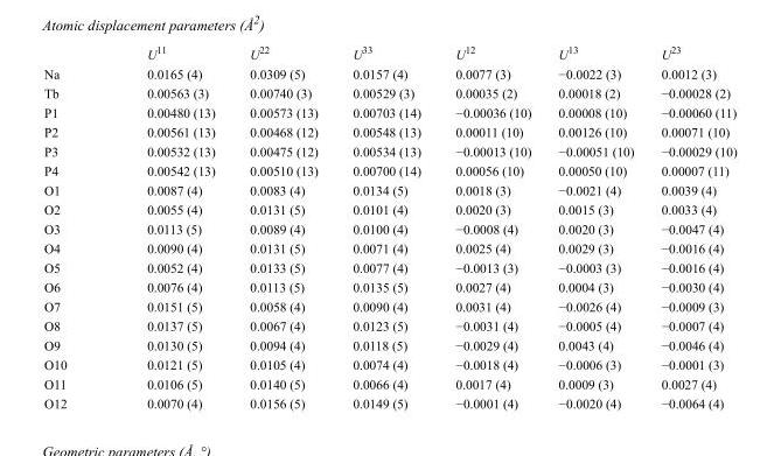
<table><thead><tr><td></td><td>U<sup>11</sup></td><td>U<sup>22</sup></td><td>U<sup>33</sup></td><td>U<sup>12</sup></td><td>U<sup>13</sup></td><td>U<sup>23</sup></td></tr></thead><tbody><tr><td>Na</td><td>0.0165 (4)</td><td>0.0309 (5)</td><td>0.0157 (4)</td><td>0.0077 (3)</td><td>−0.0022 (3)</td><td>0.0012 (3)</td></tr><tr><td>Tb</td><td>0.00563 (3)</td><td>0.00740 (3)</td><td>0.00529 (3)</td><td>0.00035 (2)</td><td>0.00018 (2)</td><td>−0.00028 (2)</td></tr><tr><td>P1</td><td>0.00480 (13)</td><td>0.00573 (13)</td><td>0.00703 (14)</td><td>−0.00036 (10)</td><td>0.00008 (10)</td><td>−0.00060 (11)</td></tr><tr><td>P2</td><td>0.00561 (13)</td><td>0.00468 (12)</td><td>0.00548 (13)</td><td>0.00011 (10)</td><td>0.00126 (10)</td><td>0.00071 (10)</td></tr><tr><td>P3</td><td>0.00532 (13)</td><td>0.00475 (12)</td><td>0.00534 (13)</td><td>−0.00013 (10)</td><td>−0.00051 (10)</td><td>−0.00029 (10)</td></tr><tr><td>P4</td><td>0.00542 (13)</td><td>0.00510 (13)</td><td>0.00700 (14)</td><td>0.00056 (10)</td><td>0.00050 (10)</td><td>0.00007 (11)</td></tr><tr><td>O1</td><td>0.0087 (4)</td><td>0.0083 (4)</td><td>0.0134 (5)</td><td>0.0018 (3)</td><td>−0.0021 (4)</td><td>0.0039 (4)</td></tr><tr><td>O2</td><td>0.0055 (4)</td><td>0.0131 (5)</td><td>0.0101 (4)</td><td>0.0020 (3)</td><td>0.0015 (3)</td><td>0.0033 (4)</td></tr><tr><td>O3</td><td>0.0113 (5)</td><td>0.0089 (4)</td><td>0.0100 (4)</td><td>−0.0008 (4)</td><td>0.0020 (3)</td><td>−0.0047 (4)</td></tr><tr><td>O4</td><td>0.0090 (4)</td><td>0.0131 (5)</td><td>0.0071 (4)</td><td>0.0025 (4)</td><td>0.0029 (3)</td><td>−0.0016 (4)</td></tr><tr><td>O5</td><td>0.0052 (4)</td><td>0.0133 (5)</td><td>0.0077 (4)</td><td>−0.0013 (3)</td><td>−0.0003 (3)</td><td>−0.0016 (4)</td></tr><tr><td>O6</td><td>0.0076 (4)</td><td>0.0113 (5)</td><td>0.0135 (5)</td><td>0.0027 (4)</td><td>0.0004 (3)</td><td>−0.0030 (4)</td></tr><tr><td>O7</td><td>0.0151 (5)</td><td>0.0058 (4)</td><td>0.0090 (4)</td><td>0.0031 (4)</td><td>−0.0026 (4)</td><td>−0.0009 (3)</td></tr><tr><td>O8</td><td>0.0137 (5)</td><td>0.0067 (4)</td><td>0.0123 (5)</td><td>−0.0031 (4)</td><td>−0.0005 (4)</td><td>−0.0007 (4)</td></tr><tr><td>O9</td><td>0.0130 (5)</td><td>0.0094 (4)</td><td>0.0118 (5)</td><td>−0.0029 (4)</td><td>0.0043 (4)</td><td>−0.0046 (4)</td></tr><tr><td>O10</td><td>0.0121 (5)</td><td>0.0105 (4)</td><td>0.0074 (4)</td><td>−0.0018 (4)</td><td>−0.0006 (3)</td><td>−0.0001 (3)</td></tr><tr><td>O11</td><td>0.0106 (5)</td><td>0.0140 (5)</td><td>0.0066 (4)</td><td>0.0017 (4)</td><td>0.0009 (3)</td><td>0.0027 (4)</td></tr><tr><td>O12</td><td>0.0070 (4)</td><td>0.0156 (5)</td><td>0.0149 (5)</td><td>−0.0001 (4)</td><td>−0.0020 (4)</td><td>−0.0064 (4)</td></tr></tbody></table>